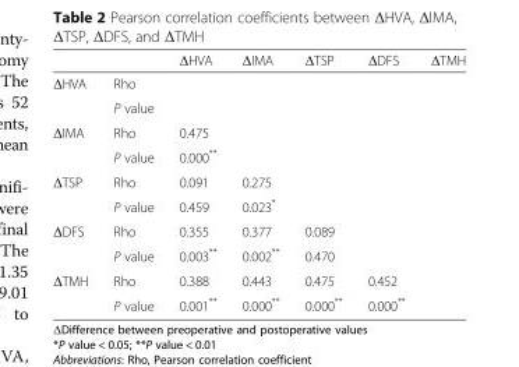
<table><thead><tr><td></td><td></td><td>ΔHVA</td><td>ΔIMA</td><td>ΔTSP</td><td>ΔDFS</td><td>ΔTMH</td></tr></thead><tbody><tr><td rowspan="2">ΔHVA</td><td>Rho</td><td></td><td></td><td></td><td></td><td></td></tr><tr><td>P value</td><td></td><td></td><td></td><td></td><td></td></tr><tr><td rowspan="2">ΔIMA</td><td>Rho</td><td>0.475</td><td></td><td></td><td></td><td></td></tr><tr><td>P value</td><td>0.000**</td><td></td><td></td><td></td><td></td></tr><tr><td rowspan="2">ΔTSP</td><td>Rho</td><td>0.091</td><td>0.275</td><td></td><td></td><td></td></tr><tr><td>P value</td><td>0.459</td><td>0.023*</td><td></td><td></td><td></td></tr><tr><td rowspan="2">ΔDFS</td><td>Rho</td><td>0.355</td><td>0.377</td><td>0.089</td><td></td><td></td></tr><tr><td>P value</td><td>0.003**</td><td>0.002**</td><td>0.470</td><td></td><td></td></tr><tr><td rowspan="2">ΔTMH</td><td>Rho</td><td>0.388</td><td>0.443</td><td>0.475</td><td>0.452</td><td></td></tr><tr><td>P value</td><td>0.001**</td><td>0.000**</td><td>0.000**</td><td>0.000**</td><td></td></tr></tbody></table>